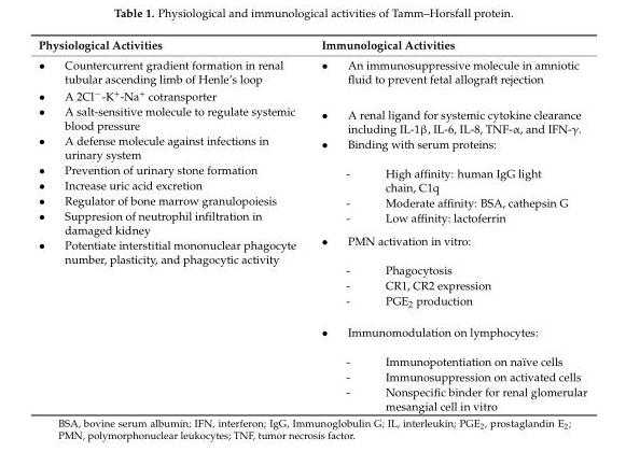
<table><thead><tr><td>Physiological Activities</td><td>Immunological Activities</td></tr></thead><tbody><tr><td>• Countercurrent gradient formation in renal tubular ascending limb of Henle’s loop</td><td>• An immunosuppressive molecule in amniotic fluid to prevent fetal allograft rejection</td></tr><tr><td rowspan="2">• A 2Cl−-K+-Na+ cotransporter • A salt-sensitive molecule to regulate systemic blood pressure • A defense molecule against infections in urinary system • Prevention of urinary stone formation • Increase uric acid excretion • Regulator of bone marrow granulopoiesis • Suppresion of neutrophil infiltration in damaged kidney • Potentiate interstitial mononuclear phagocyte number, plasticity, and phagocytic activity</td><td>• A renal ligand for systemic cytokine clearance including IL-1β, IL-6, IL-8, TNF-α, and IFN-γ. • Binding with serum proteins: - High affinity: human IgG light chain, C1q - Moderate affinity: BSA, cathepsin G - Low affinity: lactoferrin • PMN activation in vitro: - Phagocytosis - CR1, CR2 expression - PGE2 production</td></tr><tr><td>• Immunomodulation on lymphocytes: - Immunopotentiation on naïve cells - Immunosuppression on activated cells - Nonspecific binder for renal glomerular mesangial cell in vitro</td></tr></tbody></table>